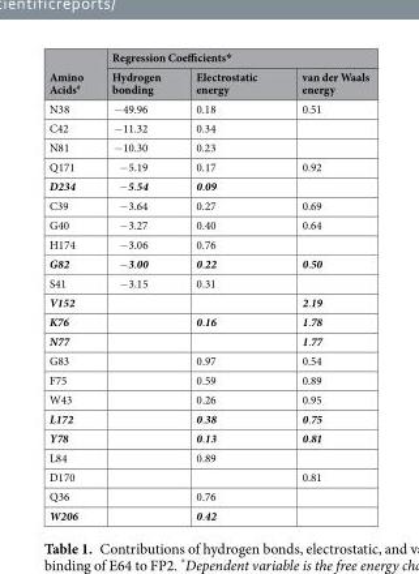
<table><thead><tr><td rowspan="2">Amino Acids<sup>#</sup></td><td colspan="3">Regression Coefficients*</td></tr><tr><td>Hydrogen bonding</td><td>Electrostatic energy</td><td>van der Waals energy</td></tr></thead><tbody><tr><td>N38</td><td>−49.96</td><td>0.18</td><td>0.51</td></tr><tr><td>C42</td><td>−11.32</td><td>0.34</td><td></td></tr><tr><td>N81</td><td>−10.30</td><td>0.23</td><td></td></tr><tr><td>Q171</td><td>−5.19</td><td>0.17</td><td>0.92</td></tr><tr><td>D234</td><td>−5.54</td><td>0.09</td><td></td></tr><tr><td>C39</td><td>−3.64</td><td>0.27</td><td>0.69</td></tr><tr><td>G40</td><td>−3.27</td><td>0.40</td><td>0.64</td></tr><tr><td>H174</td><td>−3.06</td><td>0.76</td><td></td></tr><tr><td>G82</td><td>−3.00</td><td>0.22</td><td>0.50</td></tr><tr><td>S41</td><td>−3.15</td><td>0.31</td><td></td></tr><tr><td>V152</td><td></td><td></td><td>2.19</td></tr><tr><td>K76</td><td></td><td>0.16</td><td>1.78</td></tr><tr><td>N77</td><td></td><td></td><td>1.77</td></tr><tr><td>G83</td><td></td><td>0.97</td><td>0.54</td></tr><tr><td>F75</td><td></td><td>0.59</td><td>0.89</td></tr><tr><td>W43</td><td></td><td>0.26</td><td>0.95</td></tr><tr><td>L172</td><td></td><td>0.38</td><td>0.75</td></tr><tr><td>Y78</td><td></td><td>0.13</td><td>0.81</td></tr><tr><td>L84</td><td></td><td>0.89</td><td></td></tr><tr><td>D170</td><td></td><td></td><td>0.81</td></tr><tr><td>Q36</td><td></td><td>0.76</td><td></td></tr><tr><td>W206</td><td></td><td>0.42</td><td></td></tr></tbody></table>